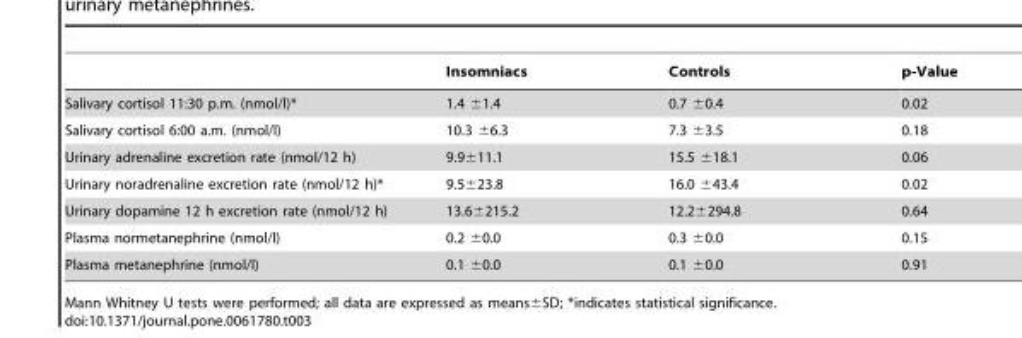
<table><thead><tr><td></td><td>Insomniacs</td><td>Controls</td><td>p-Value</td></tr></thead><tbody><tr><td>Salivary cortisol 11:30 p.m. (nmol/l)*</td><td>1.4 ±1.4</td><td>0.7 ±0.4</td><td>0.02</td></tr><tr><td>Salivary cortisol 6:00 a.m. (nmol/l)</td><td>10.3 ±6.3</td><td>7.3 ±3.5</td><td>0.18</td></tr><tr><td>Urinary adrenaline excretion rate (nmol/12 h)</td><td>9.9±11.1</td><td>15.5 ±18.1</td><td>0.06</td></tr><tr><td>Urinary noradrenaline excretion rate (nmol/12 h)*</td><td>9.5±23.8</td><td>16.0 ±43.4</td><td>0.02</td></tr><tr><td>Urinary dopamine 12 h excretion rate (nmol/12 h)</td><td>13.6±215.2</td><td>12.2±294.8</td><td>0.64</td></tr><tr><td>Plasma normetanephrine (nmol/l)</td><td>0.2 ±0.0</td><td>0.3 ±0.0</td><td>0.15</td></tr><tr><td>Plasma metanephrine (nmol/l)</td><td>0.1 ±0.0</td><td>0.1 ±0.0</td><td>0.91</td></tr></tbody></table>